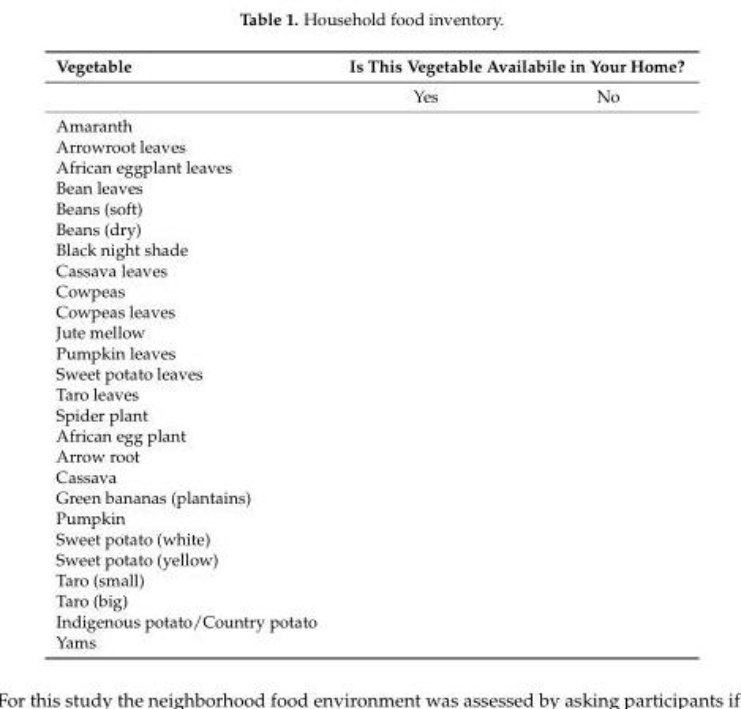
<table><thead><tr><td rowspan="2">Vegetable</td><td colspan="2">Is This Vegetable Availabile in Your Home?</td></tr><tr><td>Yes</td><td>No</td></tr></thead><tbody><tr><td colspan="3">Amaranth</td></tr><tr><td colspan="3">Arrowroot leaves</td></tr><tr><td colspan="3">African eggplant leaves</td></tr><tr><td colspan="3">Bean leaves</td></tr><tr><td colspan="3">Beans (soft)</td></tr><tr><td colspan="3">Beans (dry)</td></tr><tr><td colspan="3">Black night shade</td></tr><tr><td colspan="3">Cassava leaves</td></tr><tr><td colspan="3">Cowpeas</td></tr><tr><td colspan="3">Cowpeas leaves</td></tr><tr><td colspan="3">Jute mellow</td></tr><tr><td colspan="3">Pumpkin leaves</td></tr><tr><td colspan="3">Sweet potato leaves</td></tr><tr><td colspan="3">Taro leaves</td></tr><tr><td colspan="3">Spider plant</td></tr><tr><td colspan="3">African egg plant</td></tr><tr><td colspan="3">Arrow root</td></tr><tr><td colspan="3">Cassava</td></tr><tr><td colspan="3">Green bananas (plantains)</td></tr><tr><td colspan="3">Pumpkin</td></tr><tr><td colspan="3">Sweet potato (white)</td></tr><tr><td colspan="3">Sweet potato (yellow)</td></tr><tr><td colspan="3">Taro (small)</td></tr><tr><td colspan="3">Taro (big)</td></tr><tr><td colspan="3">Indigenous potato/Country potato</td></tr><tr><td>Yams</td><td></td><td></td></tr></tbody></table>